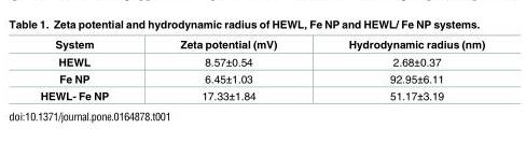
<table><thead><tr><td>System</td><td>Zeta potential (mV)</td><td>Hydrodynamic radius (nm)</td></tr></thead><tbody><tr><td>HEWL</td><td>8.57±0.54</td><td>2.68±0.37</td></tr><tr><td>Fe NP</td><td>6.45±1.03</td><td>92.95±6.11</td></tr><tr><td>HEWL- Fe NP</td><td>17.33±1.84</td><td>51.17±3.19</td></tr></tbody></table>